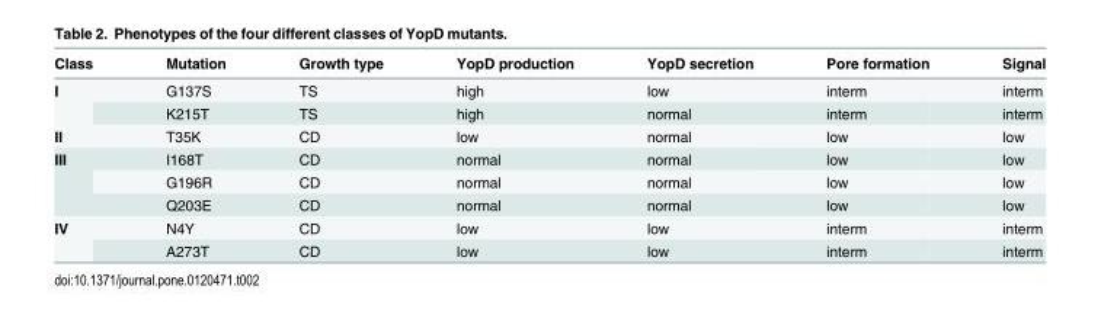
<table><thead><tr><td>Class</td><td>Mutation</td><td>Growth type</td><td>YopD production</td><td>YopD secretion</td><td>Pore formation</td><td>Signal</td></tr></thead><tbody><tr><td rowspan="2">I</td><td>G137S</td><td>TS</td><td>high</td><td>low</td><td>interm</td><td>interm</td></tr><tr><td>K215T</td><td>TS</td><td>high</td><td>normal</td><td>interm</td><td>interm</td></tr><tr><td>II</td><td>T35K</td><td>CD</td><td>low</td><td>normal</td><td>low</td><td>low</td></tr><tr><td rowspan="3">III</td><td>I168T</td><td>CD</td><td>normal</td><td>normal</td><td>low</td><td>low</td></tr><tr><td>G196R</td><td>CD</td><td>normal</td><td>normal</td><td>low</td><td>low</td></tr><tr><td>Q203E</td><td>CD</td><td>normal</td><td>normal</td><td>low</td><td>low</td></tr><tr><td rowspan="2">IV</td><td>N4Y</td><td>CD</td><td>low</td><td>low</td><td>interm</td><td>interm</td></tr><tr><td>A273T</td><td>CD</td><td>low</td><td>low</td><td>interm</td><td>interm</td></tr></tbody></table>